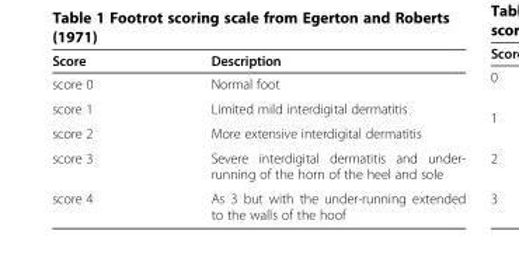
<table><thead><tr><td>Score</td><td>Description</td></tr></thead><tbody><tr><td>score 0</td><td>Normal foot</td></tr><tr><td>score 1</td><td>Limited mild interdigital dermatitis</td></tr><tr><td>score 2</td><td>More extensive interdigital dermatitis</td></tr><tr><td>score 3</td><td>Severe interdigital dermatitis and under- running of the horn of the heel and sole</td></tr><tr><td>score 4</td><td>As 3 but with the under-running extended to the walls of the hoof</td></tr></tbody></table>